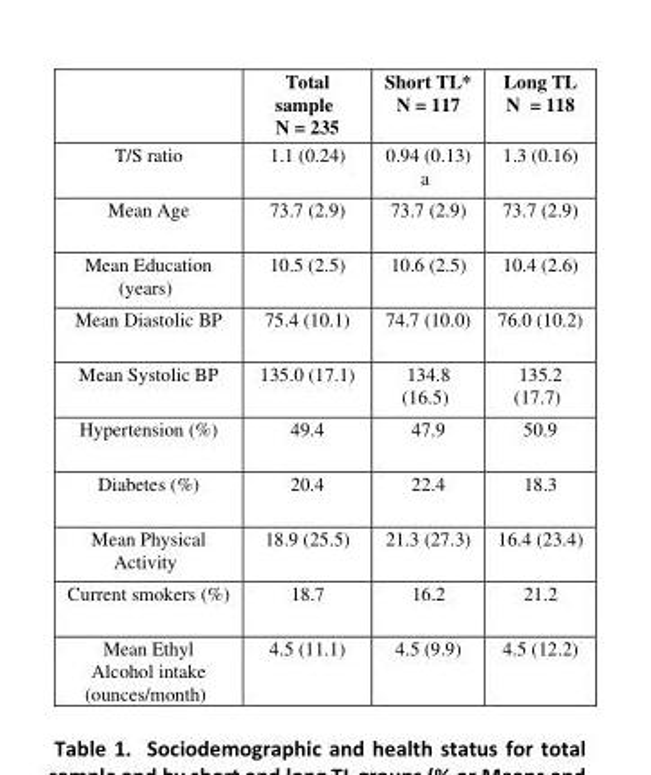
<table><thead><tr><td></td><td>Total sample N = 235</td><td>Short TL* N = 117</td><td>Long TL N = 118</td></tr></thead><tbody><tr><td>T/S ratio</td><td>1.1 (0.24)</td><td>0.94 (0.13) a</td><td>1.3 (0.16)</td></tr><tr><td>Mean Age</td><td>73.7 (2.9)</td><td>73.7 (2.9)</td><td>73.7 (2.9)</td></tr><tr><td>Mean Education (years)</td><td>10.5 (2.5)</td><td>10.6 (2.5)</td><td>10.4 (2.6)</td></tr><tr><td>Mean Diastolic BP</td><td>75.4 (10.1)</td><td>74.7 (10.0)</td><td>76.0 (10.2)</td></tr><tr><td>Mean Systolic BP</td><td>135.0 (17.1)</td><td>134.8 (16.5)</td><td>135.2 (17.7)</td></tr><tr><td>Hypertension (%)</td><td>49.4</td><td>47.9</td><td>50.9</td></tr><tr><td>Diabetes (%)</td><td>20.4</td><td>22.4</td><td>18.3</td></tr><tr><td>Mean Physical Activity</td><td>18.9 (25.5)</td><td>21.3 (27.3)</td><td>16.4 (23.4)</td></tr><tr><td>Current smokers (%)</td><td>18.7</td><td>16.2</td><td>21.2</td></tr><tr><td>Mean Ethyl Alcohol intake (ounces/month)</td><td>4.5 (11.1)</td><td>4.5 (9.9)</td><td>4.5 (12.2)</td></tr></tbody></table>